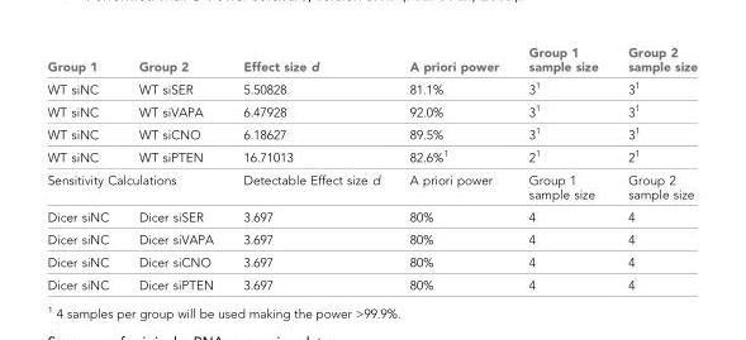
<table><thead><tr><td>Group 1</td><td>Group 2</td><td>Effect size d</td><td>A priori power</td><td>Group 1 sample size</td><td>Group 2 sample size</td></tr></thead><tbody><tr><td>WT siNC</td><td>WT siSER</td><td>5.50828</td><td>81.1%</td><td>3<sup>1</sup></td><td>3<sup>1</sup></td></tr><tr><td>WT siNC</td><td>WT siVAPA</td><td>6.47928</td><td>92.0%</td><td>3<sup>1</sup></td><td>3<sup>1</sup></td></tr><tr><td>WT siNC</td><td>WT siCNO</td><td>6.18627</td><td>89.5%</td><td>3<sup>1</sup></td><td>3<sup>1</sup></td></tr><tr><td>WT siNC</td><td>WT siPTEN</td><td>16.71013</td><td>82.6%<sup>1</sup></td><td>2<sup>1</sup></td><td>2<sup>1</sup></td></tr><tr><td colspan="2">Sensitivity Calculations</td><td>Detectable Effect size d</td><td>A priori power</td><td>Group 1 sample size</td><td>Group 2 sample size</td></tr><tr><td>Dicer siNC</td><td>Dicer siSER</td><td>3.697</td><td>80%</td><td>4</td><td>4</td></tr><tr><td>Dicer siNC</td><td>Dicer siVAPA</td><td>3.697</td><td>80%</td><td>4</td><td>4</td></tr><tr><td>Dicer siNC</td><td>Dicer siCNO</td><td>3.697</td><td>80%</td><td>4</td><td>4</td></tr><tr><td>Dicer siNC</td><td>Dicer siPTEN</td><td>3.697</td><td>80%</td><td>4</td><td>4</td></tr></tbody></table>